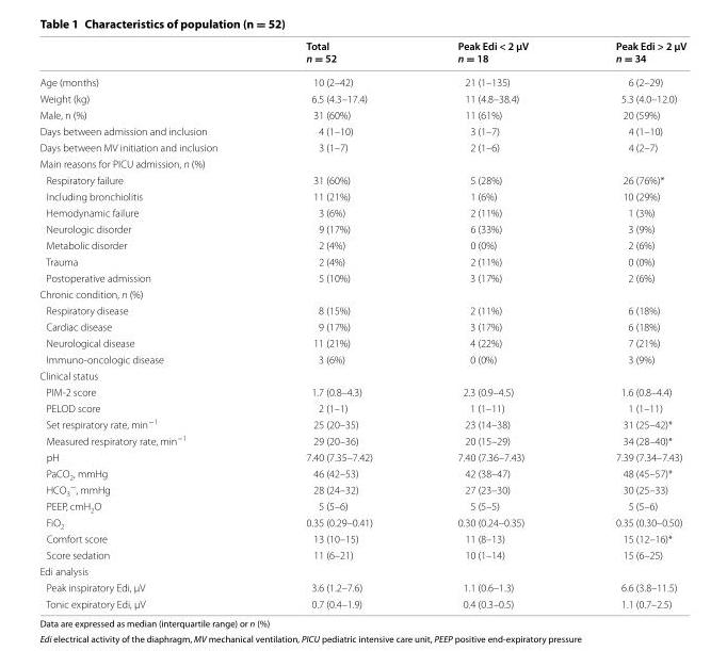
<table><thead><tr><td></td><td>Total n = 52</td><td>Peak Edi &lt; 2 µV n = 18</td><td>Peak Edi &gt; 2 µV n = 34</td></tr></thead><tbody><tr><td>Age (months)</td><td>10 (2–42)</td><td>21 (1–135)</td><td>6 (2–29)</td></tr><tr><td>Weight (kg)</td><td>6.5 (4.3–17.4)</td><td>11 (4.8–38.4)</td><td>5.3 (4.0–12.0)</td></tr><tr><td>Male, n (%)</td><td>31 (60%)</td><td>11 (61%)</td><td>20 (59%)</td></tr><tr><td>Days between admission and inclusion</td><td>4 (1–10)</td><td>3 (1–7)</td><td>4 (1–10)</td></tr><tr><td>Days between MV initiation and inclusion</td><td>3 (1–7)</td><td>2 (1–6)</td><td>4 (2–7)</td></tr><tr><td colspan="4">Main reasons for PICU admission, n (%)</td></tr><tr><td>Respiratory failure</td><td>31 (60%)</td><td>5 (28%)</td><td>26 (76%)*</td></tr><tr><td>Including bronchiolitis</td><td>11 (21%)</td><td>1 (6%)</td><td>10 (29%)</td></tr><tr><td>Hemodynamic failure</td><td>3 (6%)</td><td>2 (11%)</td><td>1 (3%)</td></tr><tr><td>Neurologic disorder</td><td>9 (17%)</td><td>6 (33%)</td><td>3 (9%)</td></tr><tr><td>Metabolic disorder</td><td>2 (4%)</td><td>0 (0%)</td><td>2 (6%)</td></tr><tr><td>Trauma</td><td>2 (4%)</td><td>2 (11%)</td><td>0 (0%)</td></tr><tr><td>Postoperative admission</td><td>5 (10%)</td><td>3 (17%)</td><td>2 (6%)</td></tr><tr><td colspan="4">Chronic condition, n (%)</td></tr><tr><td>Respiratory disease</td><td>8 (15%)</td><td>2 (11%)</td><td>6 (18%)</td></tr><tr><td>Cardiac disease</td><td>9 (17%)</td><td>3 (17%)</td><td>6 (18%)</td></tr><tr><td>Neurological disease</td><td>11 (21%)</td><td>4 (22%)</td><td>7 (21%)</td></tr><tr><td>Immuno‑oncologic disease</td><td>3 (6%)</td><td>0 (0%)</td><td>3 (9%)</td></tr><tr><td colspan="4">Clinical status</td></tr><tr><td>PIM‑2 score</td><td>1.7 (0.8–4.3)</td><td>2.3 (0.9–4.5)</td><td>1.6 (0.8–4.4)</td></tr><tr><td>PELOD score</td><td>2 (1–1)</td><td>1 (1–11)</td><td>1 (1–11)</td></tr><tr><td>Set respiratory rate, min<sup>−1</sup></td><td>25 (20–35)</td><td>23 (14–38)</td><td>31 (25–42)*</td></tr><tr><td>Measured respiratory rate, min<sup>−1</sup></td><td>29 (20–36)</td><td>20 (15–29)</td><td>34 (28–40)*</td></tr><tr><td>pH</td><td>7.40 (7.35–7.42)</td><td>7.40 (7.36–7.43)</td><td>7.39 (7.34–7.43)</td></tr><tr><td>PaCO<sub>2</sub>, mmHg</td><td>46 (42–53)</td><td>42 (38–47)</td><td>48 (45–57)*</td></tr><tr><td>HCO<sub>3</sub> <sup>−</sup>, mmHg</td><td>28 (24–32)</td><td>27 (23–30)</td><td>30 (25–33)</td></tr><tr><td>PEEP, cmH<sub>2</sub>O</td><td>5 (5–6)</td><td>5 (5–5)</td><td>5 (5–6)</td></tr><tr><td>FiO<sub>2</sub></td><td>0.35 (0.29–0.41)</td><td>0.30 (0.24–0.35)</td><td>0.35 (0.30–0.50)</td></tr><tr><td>Comfort score</td><td>13 (10–15)</td><td>11 (8–13)</td><td>15 (12–16)*</td></tr><tr><td>Score sedation</td><td>11 (6–21)</td><td>10 (1–14)</td><td>15 (6–25)</td></tr><tr><td colspan="4">Edi analysis</td></tr><tr><td>Peak inspiratory Edi, µV</td><td>3.6 (1.2–7.6)</td><td>1.1 (0.6–1.3)</td><td>6.6 (3.8–11.5)</td></tr><tr><td>Tonic expiratory Edi, µV</td><td>0.7 (0.4–1.9)</td><td>0.4 (0.3–0.5)</td><td>1.1 (0.7–2.5)</td></tr></tbody></table>